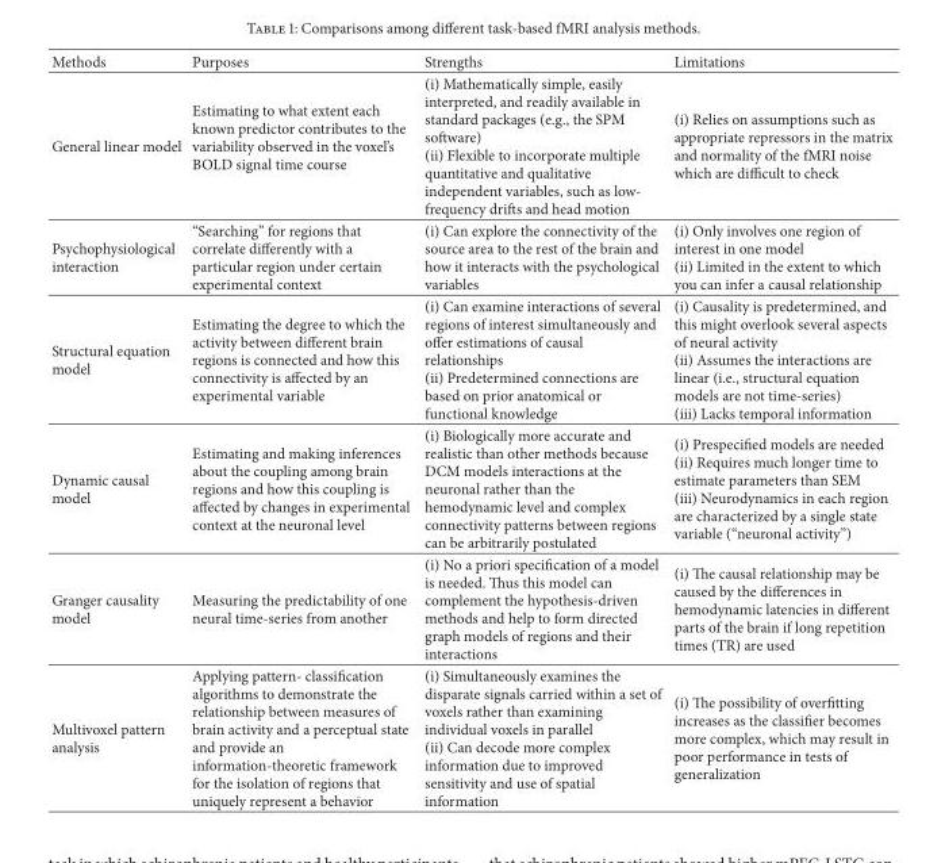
<table><thead><tr><td>Methods</td><td>Purposes</td><td>Strengths</td><td>Limitations</td></tr></thead><tbody><tr><td>General linear model</td><td>Estimating to what extent each known predictor contributes to the variability observed in the voxel’s BOLD signal time course</td><td>(i) Mathematically simple, easily interpreted, and readily available in standard packages (e.g., the SPM software) (ii) Flexible to incorporate multiple quantitative and qualitative independent variables, such as low- frequency drifts and head motion</td><td>(i) Relies on assumptions such as appropriate repressors in the matrix and normality of the fMRI noise which are difficult to check</td></tr><tr><td>Psychophysiological interaction</td><td>“Searching” for regions that correlate differently with a particular region under certain experimental context</td><td>(i) Can explore the connectivity of the source area to the rest of the brain and how it interacts with the psychological variables</td><td>(i) Only involves one region of interest in one model (ii) Limited in the extent to which you can infer a causal relationship</td></tr><tr><td>Structural equation model</td><td>Estimating the degree to which the activity between different brain regions is connected and how this connectivity is affected by an experimental variable</td><td>(i) Can examine interactions of several regions of interest simultaneously and offer estimations of causal relationships (ii) Predetermined connections are based on prior anatomical or functional knowledge</td><td>(i) Causality is predetermined, and this might overlook several aspects of neural activity (ii) Assumes the interactions are linear (i.e., structural equation models are not time-series) (iii) Lacks temporal information</td></tr><tr><td>Dynamic causal model</td><td>Estimating and making inferences about the coupling among brain regions and how this coupling is affected by changes in experimental context at the neuronal level</td><td>(i) Biologically more accurate and realistic than other methods because DCM models interactions at the neuronal rather than the hemodynamic level and complex connectivity patterns between regions can be arbitrarily postulated</td><td>(i) Prespecified models are needed (ii) Requires much longer time to estimate parameters than SEM (iii) Neurodynamics in each region are characterized by a single state variable (“neuronal activity”)</td></tr><tr><td>Granger causality model</td><td>Measuring the predictability of one neural time-series from another</td><td>(i) No a priori specification of a model is needed. Thus this model can complement the hypothesis-driven methods and help to form directed graph models of regions and their interactions</td><td>(i) The causal relationship may be caused by the differences in hemodynamic latencies in different parts of the brain if long repetition times (TR) are used</td></tr><tr><td>Multivoxel pattern analysis</td><td>Applying pattern- classification algorithms to demonstrate the relationship between measures of brain activity and a perceptual state and provide an information-theoretic framework for the isolation of regions that uniquely represent a behavior</td><td>(i) Simultaneously examines the disparate signals carried within a set of voxels rather than examining individual voxels in parallel (ii) Can decode more complex information due to improved sensitivity and use of spatial information</td><td>(i) The possibility of overfitting increases as the classifier becomes more complex, which may result in poor performance in tests of generalization</td></tr></tbody></table>